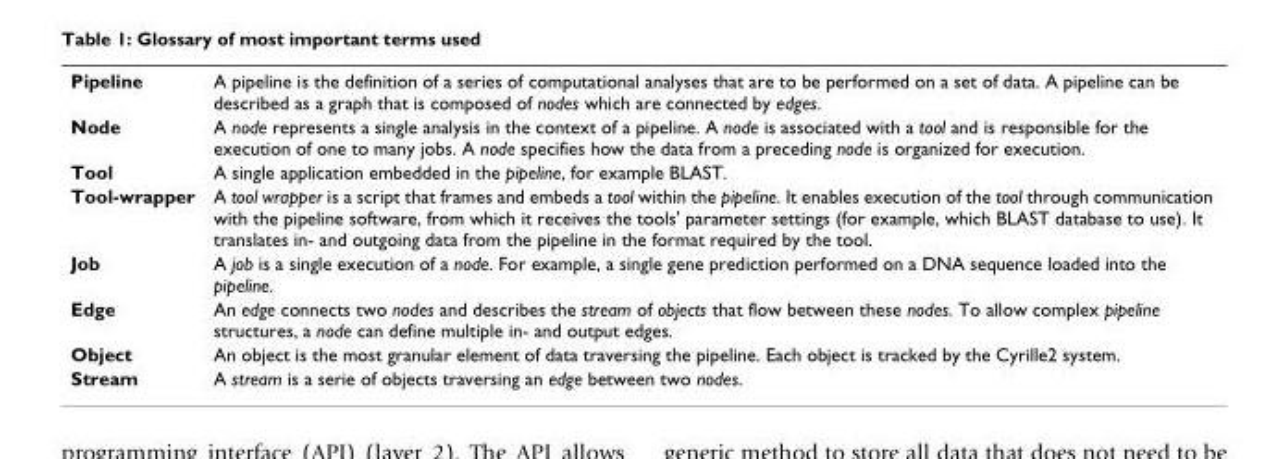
<table><tbody><tr><td>Pipeline</td><td>A pipeline is the definition of a series of computational analyses that are to be performed on a set of data. A pipeline can be described as a graph that is composed of nodes which are connected by edges.</td></tr><tr><td>Node</td><td>A node represents a single analysis in the context of a pipeline. A node is associated with a tool and is responsible for the execution of one to many jobs. A node specifies how the data from a preceding node is organized for execution.</td></tr><tr><td>Tool</td><td>A single application embedded in the pipeline, for example BLAST.</td></tr><tr><td>Tool-wrapper</td><td>A tool wrapper is a script that frames and embeds a tool within the pipeline. It enables execution of the tool through communication with the pipeline software, from which it receives the tools&#x27; parameter settings (for example, which BLAST database to use). It translates in- and outgoing data from the pipeline in the format required by the tool.</td></tr><tr><td>Job</td><td>A job is a single execution of a node. For example, a single gene prediction performed on a DNA sequence loaded into the pipeline.</td></tr><tr><td>Edge</td><td>An edge connects two nodes and describes the stream of objects that flow between these nodes. To allow complex pipeline structures, a node can define multiple in- and output edges.</td></tr><tr><td>Object</td><td>An object is the most granular element of data traversing the pipeline. Each object is tracked by the Cyrille2 system.</td></tr><tr><td>Stream</td><td>A stream is a serie of objects traversing an edge between two nodes.</td></tr></tbody></table>